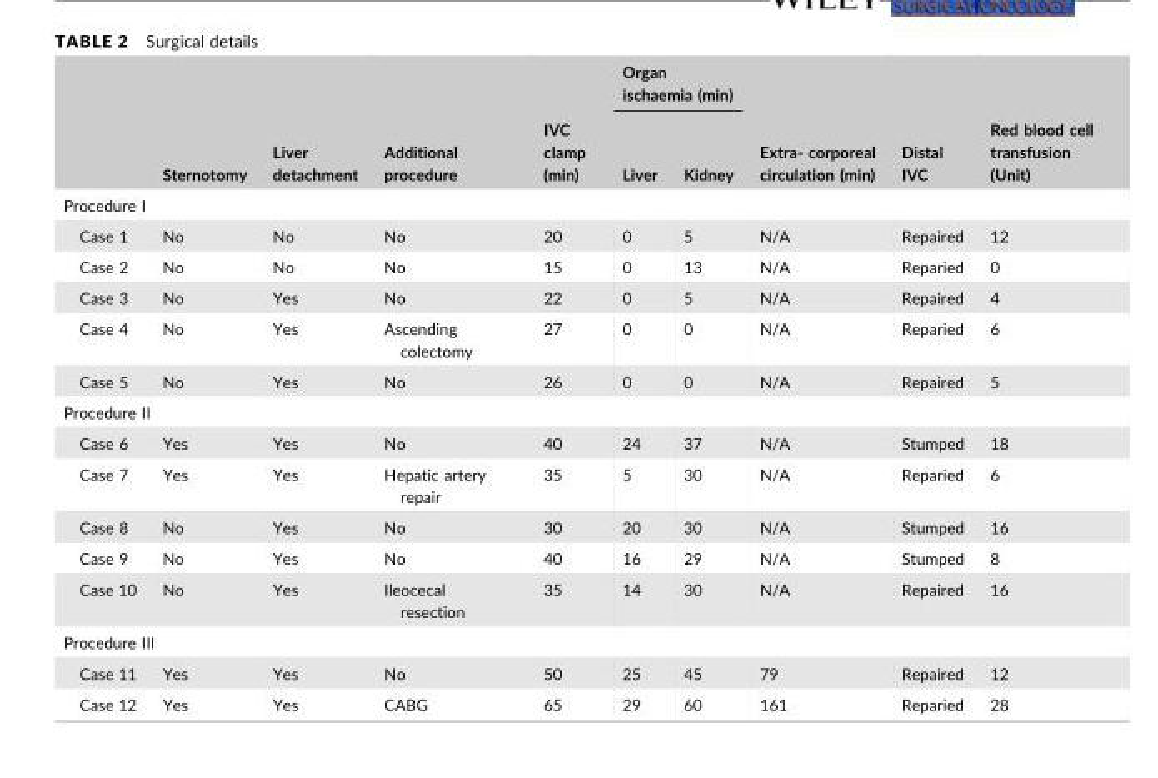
<table><thead><tr><td rowspan="2"></td><td rowspan="2">Sternotomy</td><td rowspan="2">Liver detachment</td><td rowspan="2">Additional procedure</td><td rowspan="2">IVC clamp (min)</td><td colspan="2">Organ ischaemia (min)</td><td rowspan="2">Extra- corporeal circulation (min)</td><td rowspan="2">Distal IVC</td><td rowspan="2">Red blood cell transfusion (Unit)</td></tr><tr><td>Liver</td><td>Kidney</td></tr></thead><tbody><tr><td colspan="10">Procedure I</td></tr><tr><td>Case 1</td><td>No</td><td>No</td><td>No</td><td>20</td><td>0</td><td>5</td><td>N/A</td><td>Repaired</td><td>12</td></tr><tr><td>Case 2</td><td>No</td><td>No</td><td>No</td><td>15</td><td>0</td><td>13</td><td>N/A</td><td>Reparied</td><td>0</td></tr><tr><td>Case 3</td><td>No</td><td>Yes</td><td>No</td><td>22</td><td>0</td><td>5</td><td>N/A</td><td>Repaired</td><td>4</td></tr><tr><td>Case 4</td><td>No</td><td>Yes</td><td>Ascending colectomy</td><td>27</td><td>0</td><td>0</td><td>N/A</td><td>Reparied</td><td>6</td></tr><tr><td>Case 5</td><td>No</td><td>Yes</td><td>No</td><td>26</td><td>0</td><td>0</td><td>N/A</td><td>Repaired</td><td>5</td></tr><tr><td colspan="10">Procedure II</td></tr><tr><td>Case 6</td><td>Yes</td><td>Yes</td><td>No</td><td>40</td><td>24</td><td>37</td><td>N/A</td><td>Stumped</td><td>18</td></tr><tr><td>Case 7</td><td>Yes</td><td>Yes</td><td>Hepatic artery repair</td><td>35</td><td>5</td><td>30</td><td>N/A</td><td>Reparied</td><td>6</td></tr><tr><td>Case 8</td><td>No</td><td>Yes</td><td>No</td><td>30</td><td>20</td><td>30</td><td>N/A</td><td>Stumped</td><td>16</td></tr><tr><td>Case 9</td><td>No</td><td>Yes</td><td>No</td><td>40</td><td>16</td><td>29</td><td>N/A</td><td>Stumped</td><td>8</td></tr><tr><td>Case 10</td><td>No</td><td>Yes</td><td>Ileocecal resection</td><td>35</td><td>14</td><td>30</td><td>N/A</td><td>Repaired</td><td>16</td></tr><tr><td colspan="10">Procedure III</td></tr><tr><td>Case 11</td><td>Yes</td><td>Yes</td><td>No</td><td>50</td><td>25</td><td>45</td><td>79</td><td>Repaired</td><td>12</td></tr><tr><td>Case 12</td><td>Yes</td><td>Yes</td><td>CABG</td><td>65</td><td>29</td><td>60</td><td>161</td><td>Reparied</td><td>28</td></tr></tbody></table>